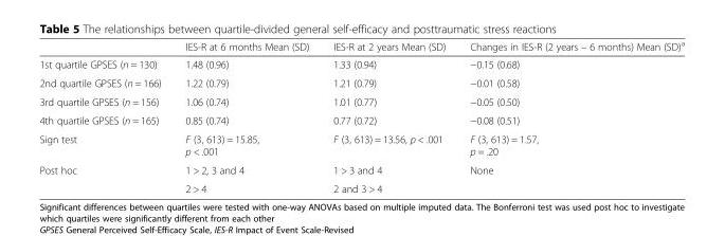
<table><thead><tr><td></td><td>IES-R at 6 months Mean (SD)</td><td>IES-R at 2 years Mean (SD)</td><td>Changes in IES-R (2 years – 6 months) Mean (SD)<sup>a</sup></td></tr></thead><tbody><tr><td>1st quartile GPSES (n = 130)</td><td>1.48 (0.96)</td><td>1.33 (0.94)</td><td>−0.15 (0.68)</td></tr><tr><td>2nd quartile GPSES (n = 166)</td><td>1.22 (0.79)</td><td>1.21 (0.79)</td><td>−0.01 (0.58)</td></tr><tr><td>3rd quartile GPSES (n = 156)</td><td>1.06 (0.74)</td><td>1.01 (0.77)</td><td>−0.05 (0.50)</td></tr><tr><td>4th quartile GPSES (n = 165)</td><td>0.85 (0.74)</td><td>0.77 (0.72)</td><td>−0.08 (0.51)</td></tr><tr><td>Sign test</td><td>F (3, 613) = 15.85, p &lt; .001</td><td>F (3, 613) = 13.56, p &lt; .001</td><td>F (3, 613) = 1.57, p = .20</td></tr><tr><td rowspan="2">Post hoc</td><td>1 &gt; 2, 3 and 4</td><td>1 &gt; 3 and 4</td><td rowspan="2">None</td></tr><tr><td>2 &gt; 4</td><td>2 and 3 &gt; 4</td></tr></tbody></table>